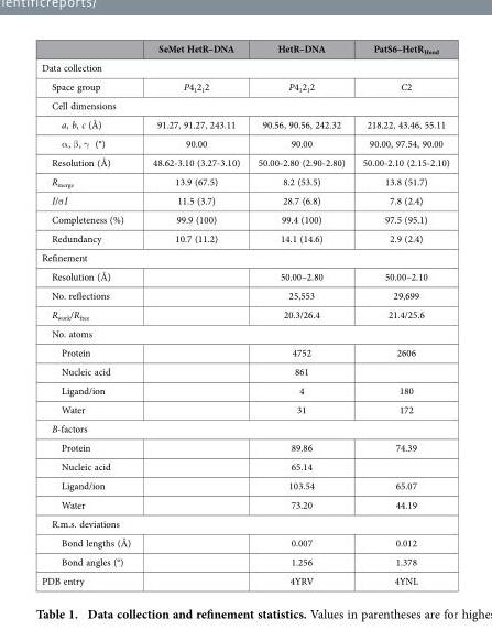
<table><thead><tr><td></td><td>SeMet HetR–DNA</td><td>HetR–DNA</td><td>PatS6–HetR<sub>Hood</sub></td></tr></thead><tbody><tr><td colspan="4">Data collection</td></tr><tr><td>Space group</td><td>P4<sub>1</sub>2<sub>1</sub>2</td><td>P4<sub>1</sub>2<sub>1</sub>2</td><td>C2</td></tr><tr><td colspan="4">Cell dimensions</td></tr><tr><td>a, b, c (Å)</td><td>91.27, 91.27, 243.11</td><td>90.56, 90.56, 242.32</td><td>218.22, 43.46, 55.11</td></tr><tr><td>α , β , γ (°)</td><td>90.00</td><td>90.00</td><td>90.00, 97.54, 90.00</td></tr><tr><td>Resolution (Å)</td><td>48.62-3.10 (3.27-3.10)</td><td>50.00-2.80 (2.90-2.80)</td><td>50.00-2.10 (2.15-2.10)</td></tr><tr><td>R<sub>merge</sub></td><td>13.9 (67.5)</td><td>8.2 (53.5)</td><td>13.8 (51.7)</td></tr><tr><td>I/σ I</td><td>11.5 (3.7)</td><td>28.7 (6.8)</td><td>7.8 (2.4)</td></tr><tr><td>Completeness (%)</td><td>99.9 (100)</td><td>99.4 (100)</td><td>97.5 (95.1)</td></tr><tr><td>Redundancy</td><td>10.7 (11.2)</td><td>14.1 (14.6)</td><td>2.9 (2.4)</td></tr><tr><td colspan="4">Refinement</td></tr><tr><td>Resolution (Å)</td><td></td><td>50.00–2.80</td><td>50.00–2.10</td></tr><tr><td>No. reflections</td><td></td><td>25,553</td><td>29,699</td></tr><tr><td>R<sub>work</sub>/R<sub>free</sub></td><td></td><td>20.3/26.4</td><td>21.4/25.6</td></tr><tr><td colspan="4">No. atoms</td></tr><tr><td>Protein</td><td></td><td>4752</td><td>2606</td></tr><tr><td>Nucleic acid</td><td></td><td>861</td><td></td></tr><tr><td>Ligand/ion</td><td></td><td>4</td><td>180</td></tr><tr><td>Water</td><td></td><td>31</td><td>172</td></tr><tr><td colspan="4">B-factors</td></tr><tr><td>Protein</td><td></td><td>89.86</td><td>74.39</td></tr><tr><td>Nucleic acid</td><td></td><td>65.14</td><td></td></tr><tr><td>Ligand/ion</td><td></td><td>103.54</td><td>65.07</td></tr><tr><td>Water</td><td></td><td>73.20</td><td>44.19</td></tr><tr><td colspan="4">R.m.s. deviations</td></tr><tr><td>Bond lengths (Å)</td><td></td><td>0.007</td><td>0.012</td></tr><tr><td>Bond angles (°)</td><td></td><td>1.256</td><td>1.378</td></tr><tr><td>PDB entry</td><td></td><td>4YRV</td><td>4YNL</td></tr></tbody></table>